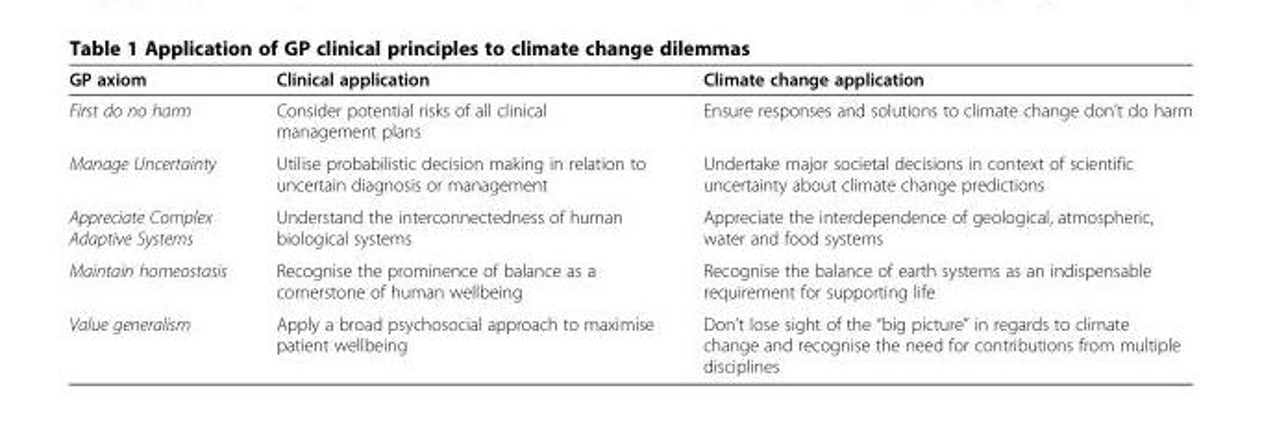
<table><thead><tr><td>GP axiom</td><td>Clinical application</td><td>Climate change application</td></tr></thead><tbody><tr><td>First do no harm</td><td>Consider potential risks of all clinical management plans</td><td>Ensure responses and solutions to climate change don’t do harm</td></tr><tr><td>Manage Uncertainty</td><td>Utilise probabilistic decision making in relation to uncertain diagnosis or management</td><td>Undertake major societal decisions in context of scientific uncertainty about climate change predictions</td></tr><tr><td>Appreciate Complex Adaptive Systems</td><td>Understand the interconnectedness of human biological systems</td><td>Appreciate the interdependence of geological, atmospheric, water and food systems</td></tr><tr><td>Maintain homeostasis</td><td>Recognise the prominence of balance as a cornerstone of human wellbeing</td><td>Recognise the balance of earth systems as an indispensable requirement for supporting life</td></tr><tr><td>Value generalism</td><td>Apply a broad psychosocial approach to maximise patient wellbeing</td><td>Don’t lose sight of the “big picture” in regards to climate change and recognise the need for contributions from multiple disciplines</td></tr></tbody></table>